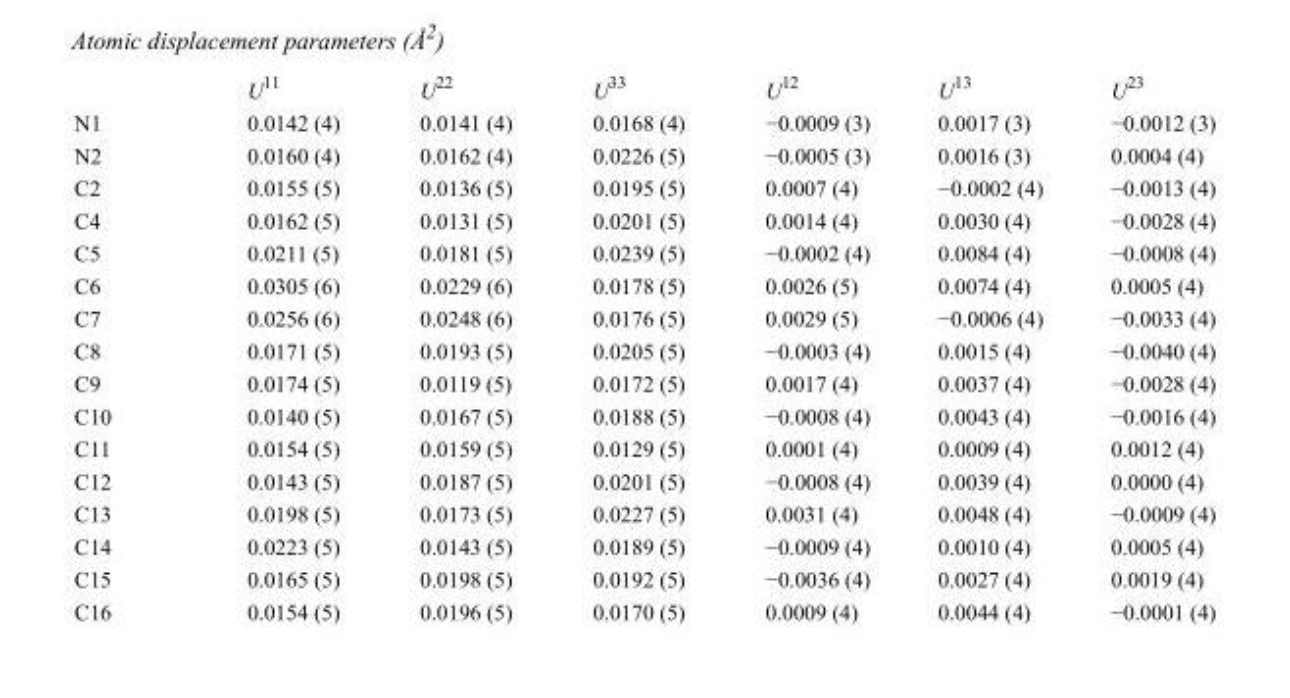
<table><thead><tr><td></td><td>U<sup>11</sup></td><td>U<sup>22</sup></td><td>U<sup>33</sup></td><td>U<sup>12</sup></td><td>U<sup>13</sup></td><td>U<sup>23</sup></td></tr></thead><tbody><tr><td>N1</td><td>0.0142 (4)</td><td>0.0141 (4)</td><td>0.0168 (4)</td><td>−0.0009 (3)</td><td>0.0017 (3)</td><td>−0.0012 (3)</td></tr><tr><td>N2</td><td>0.0160 (4)</td><td>0.0162 (4)</td><td>0.0226 (5)</td><td>−0.0005 (3)</td><td>0.0016 (3)</td><td>0.0004 (4)</td></tr><tr><td>C2</td><td>0.0155 (5)</td><td>0.0136 (5)</td><td>0.0195 (5)</td><td>0.0007 (4)</td><td>−0.0002 (4)</td><td>−0.0013 (4)</td></tr><tr><td>C4</td><td>0.0162 (5)</td><td>0.0131 (5)</td><td>0.0201 (5)</td><td>0.0014 (4)</td><td>0.0030 (4)</td><td>−0.0028 (4)</td></tr><tr><td>C5</td><td>0.0211 (5)</td><td>0.0181 (5)</td><td>0.0239 (5)</td><td>−0.0002 (4)</td><td>0.0084 (4)</td><td>−0.0008 (4)</td></tr><tr><td>C6</td><td>0.0305 (6)</td><td>0.0229 (6)</td><td>0.0178 (5)</td><td>0.0026 (5)</td><td>0.0074 (4)</td><td>0.0005 (4)</td></tr><tr><td>C7</td><td>0.0256 (6)</td><td>0.0248 (6)</td><td>0.0176 (5)</td><td>0.0029 (5)</td><td>−0.0006 (4)</td><td>−0.0033 (4)</td></tr><tr><td>C8</td><td>0.0171 (5)</td><td>0.0193 (5)</td><td>0.0205 (5)</td><td>−0.0003 (4)</td><td>0.0015 (4)</td><td>−0.0040 (4)</td></tr><tr><td>C9</td><td>0.0174 (5)</td><td>0.0119 (5)</td><td>0.0172 (5)</td><td>0.0017 (4)</td><td>0.0037 (4)</td><td>−0.0028 (4)</td></tr><tr><td>C10</td><td>0.0140 (5)</td><td>0.0167 (5)</td><td>0.0188 (5)</td><td>−0.0008 (4)</td><td>0.0043 (4)</td><td>−0.0016 (4)</td></tr><tr><td>C11</td><td>0.0154 (5)</td><td>0.0159 (5)</td><td>0.0129 (5)</td><td>0.0001 (4)</td><td>0.0009 (4)</td><td>0.0012 (4)</td></tr><tr><td>C12</td><td>0.0143 (5)</td><td>0.0187 (5)</td><td>0.0201 (5)</td><td>−0.0008 (4)</td><td>0.0039 (4)</td><td>0.0000 (4)</td></tr><tr><td>C13</td><td>0.0198 (5)</td><td>0.0173 (5)</td><td>0.0227 (5)</td><td>0.0031 (4)</td><td>0.0048 (4)</td><td>−0.0009 (4)</td></tr><tr><td>C14</td><td>0.0223 (5)</td><td>0.0143 (5)</td><td>0.0189 (5)</td><td>−0.0009 (4)</td><td>0.0010 (4)</td><td>0.0005 (4)</td></tr><tr><td>C15</td><td>0.0165 (5)</td><td>0.0198 (5)</td><td>0.0192 (5)</td><td>−0.0036 (4)</td><td>0.0027 (4)</td><td>0.0019 (4)</td></tr><tr><td>C16</td><td>0.0154 (5)</td><td>0.0196 (5)</td><td>0.0170 (5)</td><td>0.0009 (4)</td><td>0.0044 (4)</td><td>−0.0001 (4)</td></tr></tbody></table>